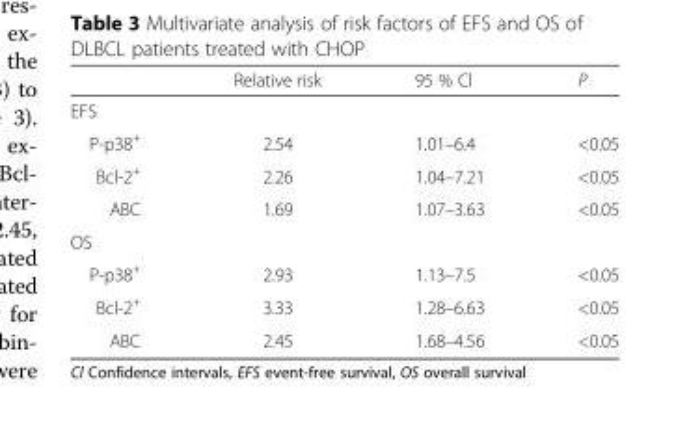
<table><thead><tr><td></td><td>Relative risk</td><td>95 % Cl</td><td>P</td></tr></thead><tbody><tr><td colspan="4">EFS</td></tr><tr><td>P-p38<sup>+</sup></td><td>2.54</td><td>1.01–6.4</td><td>&lt;0.05</td></tr><tr><td>Bcl-2<sup>+</sup></td><td>2.26</td><td>1.04–7.21</td><td>&lt;0.05</td></tr><tr><td>ABC</td><td>1.69</td><td>1.07–3.63</td><td>&lt;0.05</td></tr><tr><td colspan="4">OS</td></tr><tr><td>P-p38<sup>+</sup></td><td>2.93</td><td>1.13–7.5</td><td>&lt;0.05</td></tr><tr><td>Bcl-2<sup>+</sup></td><td>3.33</td><td>1.28–6.63</td><td>&lt;0.05</td></tr><tr><td>ABC</td><td>2.45</td><td>1.68–4.56</td><td>&lt;0.05</td></tr></tbody></table>